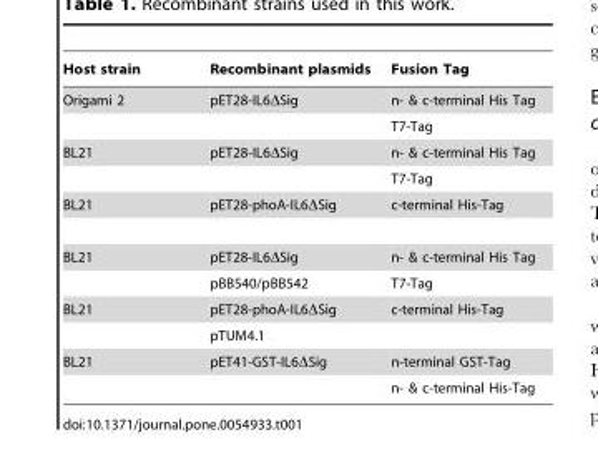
<table><thead><tr><td>Host strain</td><td>Recombinant plasmids</td><td>Fusion Tag</td></tr></thead><tbody><tr><td rowspan="2">Origami 2</td><td>pET28-IL6ΔSig</td><td>n- &amp; c-terminal His Tag</td></tr><tr><td></td><td>T7-Tag</td></tr><tr><td rowspan="2">BL21</td><td>pET28-IL6ΔSig</td><td>n- &amp; c-terminal His Tag</td></tr><tr><td></td><td>T7-Tag</td></tr><tr><td>BL21</td><td>pET28-phoA-IL6ΔSig</td><td>c-terminal His-Tag</td></tr><tr><td rowspan="2">BL21</td><td>pET28-IL6ΔSig</td><td>n- &amp; c-terminal His Tag</td></tr><tr><td>pBB540/pBB542</td><td>T7-Tag</td></tr><tr><td rowspan="2">BL21</td><td>pET28-phoA-IL6ΔSig</td><td>c-terminal His-Tag</td></tr><tr><td>pTUM4.1</td><td></td></tr><tr><td rowspan="2">BL21</td><td>pET41-GST-IL6ΔSig</td><td>n-terminal GST-Tag</td></tr><tr><td></td><td>n- &amp; c-terminal His-Tag</td></tr></tbody></table>